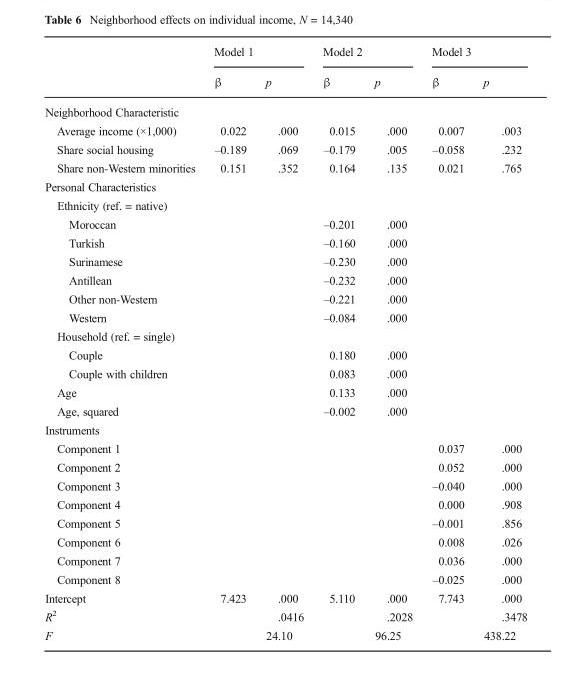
<table><thead><tr><td rowspan="2"></td><td colspan="2">Model 1</td><td colspan="2">Model 2</td><td colspan="2">Model 3</td></tr><tr><td>β</td><td>p</td><td>β</td><td>p</td><td>β</td><td>p</td></tr></thead><tbody><tr><td colspan="7">Neighborhood Characteristic</td></tr><tr><td>Average income (×1,000)</td><td>0.022</td><td>.000</td><td>0.015</td><td>.000</td><td>0.007</td><td>.003</td></tr><tr><td>Share social housing</td><td>–0.189</td><td>.069</td><td>–0.179</td><td>.005</td><td>–0.058</td><td>.232</td></tr><tr><td>Share non-Western minorities</td><td>0.151</td><td>.352</td><td>0.164</td><td>.135</td><td>0.021</td><td>.765</td></tr><tr><td colspan="7">Personal Characteristics</td></tr><tr><td colspan="7">Ethnicity (ref. = native)</td></tr><tr><td>Moroccan</td><td></td><td></td><td>–0.201</td><td>.000</td><td></td><td></td></tr><tr><td>Turkish</td><td></td><td></td><td>–0.160</td><td>.000</td><td></td><td></td></tr><tr><td>Surinamese</td><td></td><td></td><td>–0.230</td><td>.000</td><td></td><td></td></tr><tr><td>Antillean</td><td></td><td></td><td>–0.232</td><td>.000</td><td></td><td></td></tr><tr><td>Other non-Western</td><td></td><td></td><td>–0.221</td><td>.000</td><td></td><td></td></tr><tr><td>Western</td><td></td><td></td><td>–0.084</td><td>.000</td><td></td><td></td></tr><tr><td colspan="7">Household (ref. = single)</td></tr><tr><td>Couple</td><td></td><td></td><td>0.180</td><td>.000</td><td></td><td></td></tr><tr><td>Couple with children</td><td></td><td></td><td>0.083</td><td>.000</td><td></td><td></td></tr><tr><td>Age</td><td></td><td></td><td>0.133</td><td>.000</td><td></td><td></td></tr><tr><td>Age, squared</td><td></td><td></td><td>–0.002</td><td>.000</td><td></td><td></td></tr><tr><td colspan="7">Instruments</td></tr><tr><td>Component 1</td><td></td><td></td><td></td><td></td><td>0.037</td><td>.000</td></tr><tr><td>Component 2</td><td></td><td></td><td></td><td></td><td>0.052</td><td>.000</td></tr><tr><td>Component 3</td><td></td><td></td><td></td><td></td><td>–0.040</td><td>.000</td></tr><tr><td>Component 4</td><td></td><td></td><td></td><td></td><td>0.000</td><td>.908</td></tr><tr><td>Component 5</td><td></td><td></td><td></td><td></td><td>–0.001</td><td>.856</td></tr><tr><td>Component 6</td><td></td><td></td><td></td><td></td><td>0.008</td><td>.026</td></tr><tr><td>Component 7</td><td></td><td></td><td></td><td></td><td>0.036</td><td>.000</td></tr><tr><td>Component 8</td><td></td><td></td><td></td><td></td><td>–0.025</td><td>.000</td></tr><tr><td>Intercept</td><td>7.423</td><td>.000</td><td>5.110</td><td>.000</td><td>7.743</td><td>.000</td></tr><tr><td>R<sup>2</sup></td><td></td><td>.0416</td><td></td><td>.2028</td><td></td><td>.3478</td></tr><tr><td>F</td><td></td><td>24.10</td><td></td><td>96.25</td><td></td><td>438.22</td></tr></tbody></table>